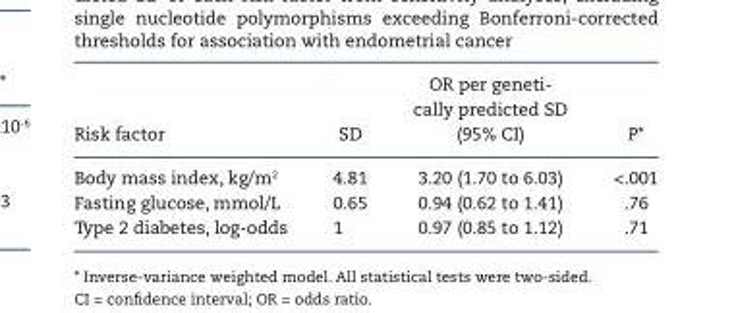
<table><thead><tr><td>Risk factor</td><td>SD</td><td>OR per geneti- cally predicted SD (95% CI)</td><td>P*</td></tr></thead><tbody><tr><td>Body mass index, kg/m<sup>2</sup></td><td>4.81</td><td>3.20 (1.70 to 6.03)</td><td>&lt;.001</td></tr><tr><td>Fasting glucose, mmol/L</td><td>0.65</td><td>0.94 (0.62 to 1.41)</td><td>.76</td></tr><tr><td>Type 2 diabetes, log-odds</td><td>1</td><td>0.97 (0.85 to 1.12)</td><td>.71</td></tr></tbody></table>